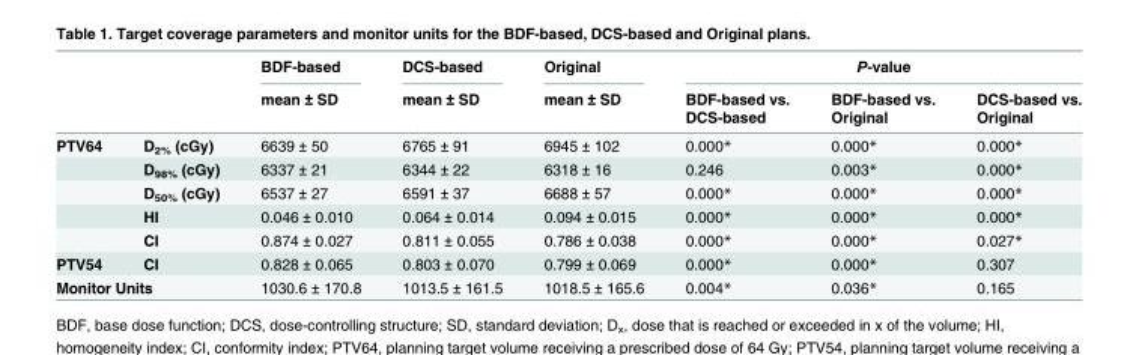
<table><thead><tr><td rowspan="3"></td><td rowspan="3"></td><td rowspan="3">BDF-based mean ± SD</td><td rowspan="3">DCS-based mean ± SD</td><td rowspan="3">Original mean ± SD</td><td colspan="3">P-value</td></tr><tr><td rowspan="2">BDF-based vs. DCS-based</td><td rowspan="2">BDF-based vs. Original</td><td rowspan="2">DCS-based vs. Original</td></tr><tr></tr></thead><tbody><tr><td rowspan="5">PTV64</td><td>D<sub>2%</sub> (cGy)</td><td>6639 ± 50</td><td>6765 ± 91</td><td>6945 ± 102</td><td>0.000*</td><td>0.000*</td><td>0.000*</td></tr><tr><td>D<sub>98%</sub> (cGy)</td><td>6337 ± 21</td><td>6344 ± 22</td><td>6318 ± 16</td><td>0.246</td><td>0.003*</td><td>0.000*</td></tr><tr><td>D<sub>50%</sub> (cGy)</td><td>6537 ± 27</td><td>6591 ± 37</td><td>6688 ± 57</td><td>0.000*</td><td>0.000*</td><td>0.000*</td></tr><tr><td>HI</td><td>0.046 ± 0.010</td><td>0.064 ± 0.014</td><td>0.094 ± 0.015</td><td>0.000*</td><td>0.000*</td><td>0.000*</td></tr><tr><td>CI</td><td>0.874 ± 0.027</td><td>0.811 ± 0.055</td><td>0.786 ± 0.038</td><td>0.000*</td><td>0.000*</td><td>0.027*</td></tr><tr><td>PTV54</td><td>CI</td><td>0.828 ± 0.065</td><td>0.803 ± 0.070</td><td>0.799 ± 0.069</td><td>0.000*</td><td>0.000*</td><td>0.307</td></tr><tr><td colspan="2">Monitor Units</td><td>1030.6 ± 170.8</td><td>1013.5 ± 161.5</td><td>1018.5 ± 165.6</td><td>0.004*</td><td>0.036*</td><td>0.165</td></tr></tbody></table>